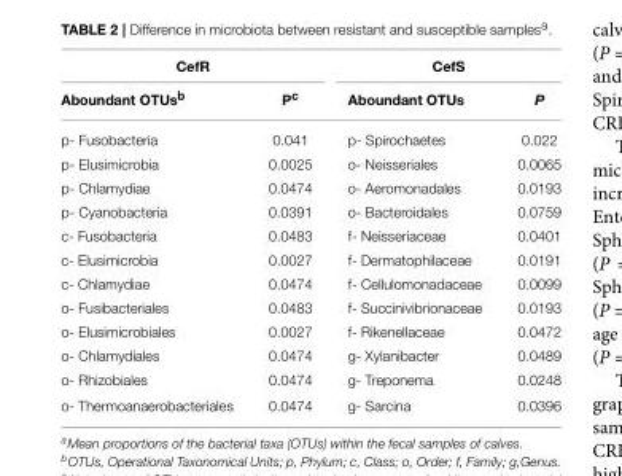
<table><thead><tr><td colspan="2">CefR</td><td colspan="2">CefS</td></tr><tr><td>Aboundant OTUs<sup>b</sup></td><td>P<sup>c</sup></td><td>Aboundant OTUs</td><td>P</td></tr></thead><tbody><tr><td>p- Fusobacteria</td><td>0.041</td><td>p- Spirochaetes</td><td>0.022</td></tr><tr><td>p- Elusimicrobia</td><td>0.0025</td><td>o- Neisseriales</td><td>0.0065</td></tr><tr><td>p- Chlamydiae</td><td>0.0474</td><td>o- Aeromonadales</td><td>0.0193</td></tr><tr><td>p- Cyanobacteria</td><td>0.0391</td><td>o- Bacteroidales</td><td>0.0759</td></tr><tr><td>c- Fusobacteria</td><td>0.0483</td><td>f- Neisseriaceae</td><td>0.0401</td></tr><tr><td>c- Elusimicrobia</td><td>0.0027</td><td>f- Dermatophilaceae</td><td>0.0191</td></tr><tr><td>c- Chlamydiae</td><td>0.0474</td><td>f- Cellulomonadaceae</td><td>0.0099</td></tr><tr><td>o- Fusibacteriales</td><td>0.0483</td><td>f- Succinivibrionaceae</td><td>0.0193</td></tr><tr><td>o- Elusimicrobiales</td><td>0.0027</td><td>f- Rikenellaceae</td><td>0.0472</td></tr><tr><td>o- Chlamydiales</td><td>0.0474</td><td>g- Xylanibacter</td><td>0.0489</td></tr><tr><td>o- Rhizobiales</td><td>0.0474</td><td>g- Treponema</td><td>0.0248</td></tr><tr><td>o- Thermoanaerobacteriales</td><td>0.0474</td><td>g- Sarcina</td><td>0.0396</td></tr></tbody></table>